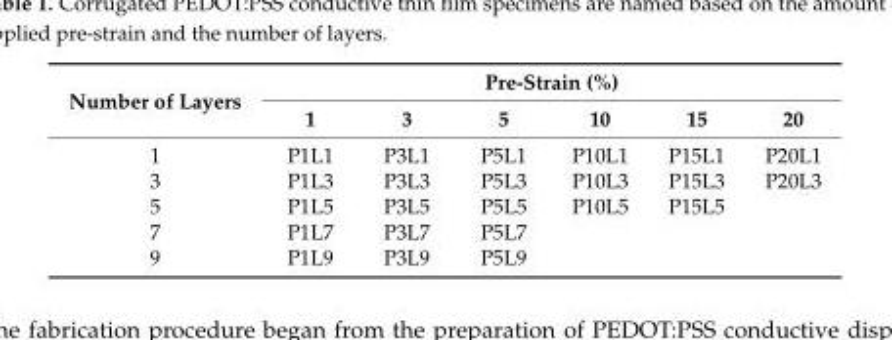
<table><thead><tr><td rowspan="2">Number of Layers</td><td colspan="6">Pre-Strain (%)</td></tr><tr><td>1</td><td>3</td><td>5</td><td>10</td><td>15</td><td>20</td></tr></thead><tbody><tr><td>1</td><td>P1L1</td><td>P3L1</td><td>P5L1</td><td>P10L1</td><td>P15L1</td><td>P20L1</td></tr><tr><td>3</td><td>P1L3</td><td>P3L3</td><td>P5L3</td><td>P10L3</td><td>P15L3</td><td>P20L3</td></tr><tr><td>5</td><td>P1L5</td><td>P3L5</td><td>P5L5</td><td>P10L5</td><td>P15L5</td><td></td></tr><tr><td>7</td><td>P1L7</td><td>P3L7</td><td>P5L7</td><td></td><td></td><td></td></tr><tr><td>9</td><td>P1L9</td><td>P3L9</td><td>P5L9</td><td></td><td></td><td></td></tr></tbody></table>